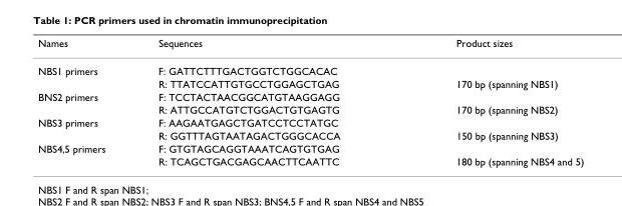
<table><thead><tr><td>Names</td><td>Sequences</td><td>Product sizes</td></tr></thead><tbody><tr><td rowspan="2">NBS1 primers</td><td>F: GATTCTTTGACTGGTCTGGCACAC</td><td></td></tr><tr><td>R: TTATCCATTGTGCCTGGAGCTGAG</td><td>170 bp (spanning NBS1)</td></tr><tr><td rowspan="2">BNS2 primers</td><td>F: TCCTACTAACGGCATGTAAGGAGG</td><td></td></tr><tr><td>R: ATTGCCATGTCTGGACTGTGAGTG</td><td>170 bp (spanning NBS2)</td></tr><tr><td rowspan="2">NBS3 primers</td><td>F: AAGAATGAGCTGATCCTCCTATGC</td><td></td></tr><tr><td>R: GGTTTAGTAATAGACTGGGCACCA</td><td>150 bp (spanning NBS3)</td></tr><tr><td rowspan="2">NBS4,5 primers</td><td>F: GTGTAGCAGGTAAATCAGTGTGAG</td><td></td></tr><tr><td>R: TCAGCTGACGAGCAACTTCAATTC</td><td>180 bp (spanning NBS4 and 5)</td></tr></tbody></table>